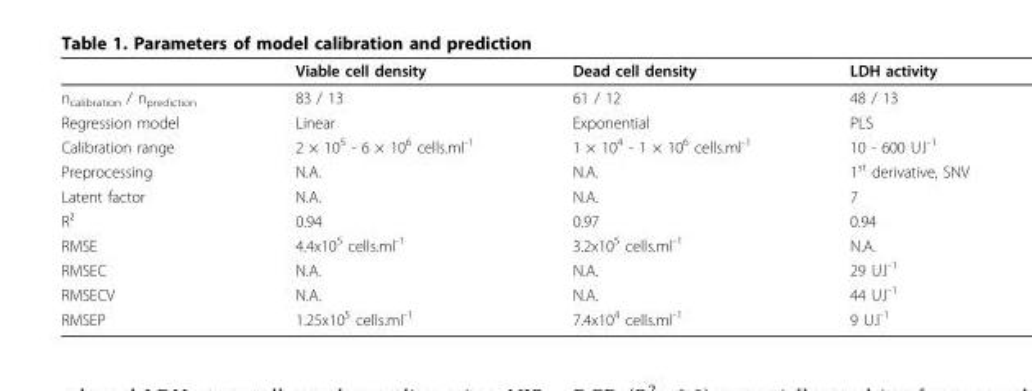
<table><thead><tr><td></td><td>Viable cell density</td><td>Dead cell density</td><td>LDH activity</td></tr></thead><tbody><tr><td>n<sub>calibration</sub> / n<sub>prediction</sub></td><td>83 / 13</td><td>61 / 12</td><td>48 / 13</td></tr><tr><td>Regression model</td><td>Linear</td><td>Exponential</td><td>PLS</td></tr><tr><td>Calibration range</td><td>2 × 10<sup>5</sup> - 6 × 10<sup>6</sup> cells.ml<sup>-1</sup></td><td>1 × 10<sup>4</sup> - 1 × 10<sup>6</sup> cells.ml<sup>-1</sup></td><td>10 - 600 U.l<sup>-1</sup></td></tr><tr><td>Preprocessing</td><td>N.A.</td><td>N.A.</td><td>1<sup>st</sup> derivative, SNV</td></tr><tr><td>Latent factor</td><td>N.A.</td><td>N.A.</td><td>7</td></tr><tr><td>R²</td><td>0.94</td><td>0.97</td><td>0.94</td></tr><tr><td>RMSE</td><td>4.4x10<sup>5</sup> cells.ml<sup>-1</sup></td><td>3.2x10<sup>5</sup> cells.ml<sup>-1</sup></td><td>N.A.</td></tr><tr><td>RMSEC</td><td>N.A.</td><td>N.A.</td><td>29 U.l<sup>-1</sup></td></tr><tr><td>RMSECV</td><td>N.A.</td><td>N.A.</td><td>44 U.l<sup>-1</sup></td></tr><tr><td>RMSEP</td><td>1.25x10<sup>5</sup> cells.ml<sup>-1</sup></td><td>7.4x10<sup>4</sup> cells.ml<sup>-1</sup></td><td>9 U.l<sup>-1</sup></td></tr></tbody></table>